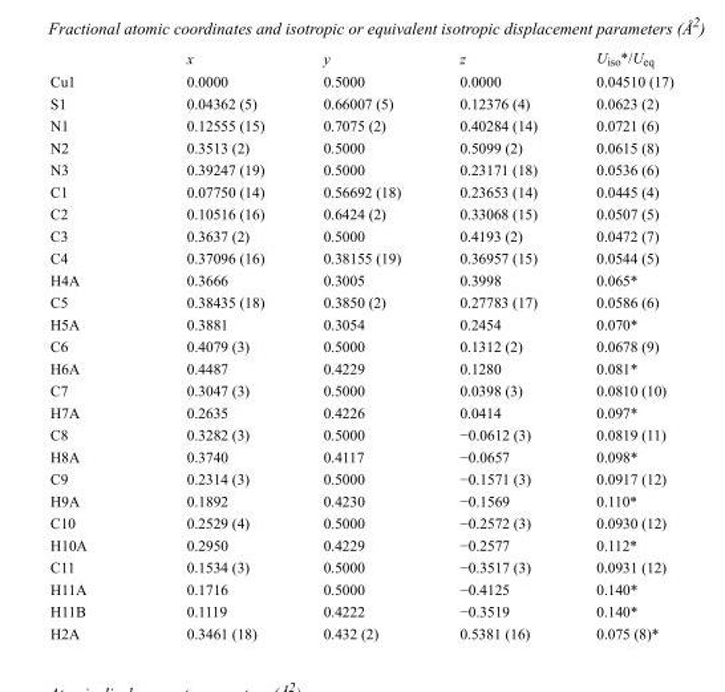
<table><thead><tr><td></td><td>x</td><td>y</td><td>z</td><td>U<sub>iso</sub>*/U<sub>eq</sub></td></tr></thead><tbody><tr><td>Cu1</td><td>0.0000</td><td>0.5000</td><td>0.0000</td><td>0.04510 (17)</td></tr><tr><td>S1</td><td>0.04362 (5)</td><td>0.66007 (5)</td><td>0.12376 (4)</td><td>0.0623 (2)</td></tr><tr><td>N1</td><td>0.12555 (15)</td><td>0.7075 (2)</td><td>0.40284 (14)</td><td>0.0721 (6)</td></tr><tr><td>N2</td><td>0.3513 (2)</td><td>0.5000</td><td>0.5099 (2)</td><td>0.0615 (8)</td></tr><tr><td>N3</td><td>0.39247 (19)</td><td>0.5000</td><td>0.23171 (18)</td><td>0.0536 (6)</td></tr><tr><td>C1</td><td>0.07750 (14)</td><td>0.56692 (18)</td><td>0.23653 (14)</td><td>0.0445 (4)</td></tr><tr><td>C2</td><td>0.10516 (16)</td><td>0.6424 (2)</td><td>0.33068 (15)</td><td>0.0507 (5)</td></tr><tr><td>C3</td><td>0.3637 (2)</td><td>0.5000</td><td>0.4193 (2)</td><td>0.0472 (7)</td></tr><tr><td>C4</td><td>0.37096 (16)</td><td>0.38155 (19)</td><td>0.36957 (15)</td><td>0.0544 (5)</td></tr><tr><td>H4A</td><td>0.3666</td><td>0.3005</td><td>0.3998</td><td>0.065*</td></tr><tr><td>C5</td><td>0.38435 (18)</td><td>0.3850 (2)</td><td>0.27783 (17)</td><td>0.0586 (6)</td></tr><tr><td>H5A</td><td>0.3881</td><td>0.3054</td><td>0.2454</td><td>0.070*</td></tr><tr><td>C6</td><td>0.4079 (3)</td><td>0.5000</td><td>0.1312 (2)</td><td>0.0678 (9)</td></tr><tr><td>H6A</td><td>0.4487</td><td>0.4229</td><td>0.1280</td><td>0.081*</td></tr><tr><td>C7</td><td>0.3047 (3)</td><td>0.5000</td><td>0.0398 (3)</td><td>0.0810 (10)</td></tr><tr><td>H7A</td><td>0.2635</td><td>0.4226</td><td>0.0414</td><td>0.097*</td></tr><tr><td>C8</td><td>0.3282 (3)</td><td>0.5000</td><td>−0.0612 (3)</td><td>0.0819 (11)</td></tr><tr><td>H8A</td><td>0.3740</td><td>0.4117</td><td>−0.0657</td><td>0.098*</td></tr><tr><td>C9</td><td>0.2314 (3)</td><td>0.5000</td><td>−0.1571 (3)</td><td>0.0917 (12)</td></tr><tr><td>H9A</td><td>0.1892</td><td>0.4230</td><td>−0.1569</td><td>0.110*</td></tr><tr><td>C10</td><td>0.2529 (4)</td><td>0.5000</td><td>−0.2572 (3)</td><td>0.0930 (12)</td></tr><tr><td>H10A</td><td>0.2950</td><td>0.4229</td><td>−0.2577</td><td>0.112*</td></tr><tr><td>C11</td><td>0.1534 (3)</td><td>0.5000</td><td>−0.3517 (3)</td><td>0.0931 (12)</td></tr><tr><td>H11A</td><td>0.1716</td><td>0.5000</td><td>−0.4125</td><td>0.140*</td></tr><tr><td>H11B</td><td>0.1119</td><td>0.4222</td><td>−0.3519</td><td>0.140*</td></tr><tr><td>H2A</td><td>0.3461 (18)</td><td>0.432 (2)</td><td>0.5381 (16)</td><td>0.075 (8)*</td></tr></tbody></table>